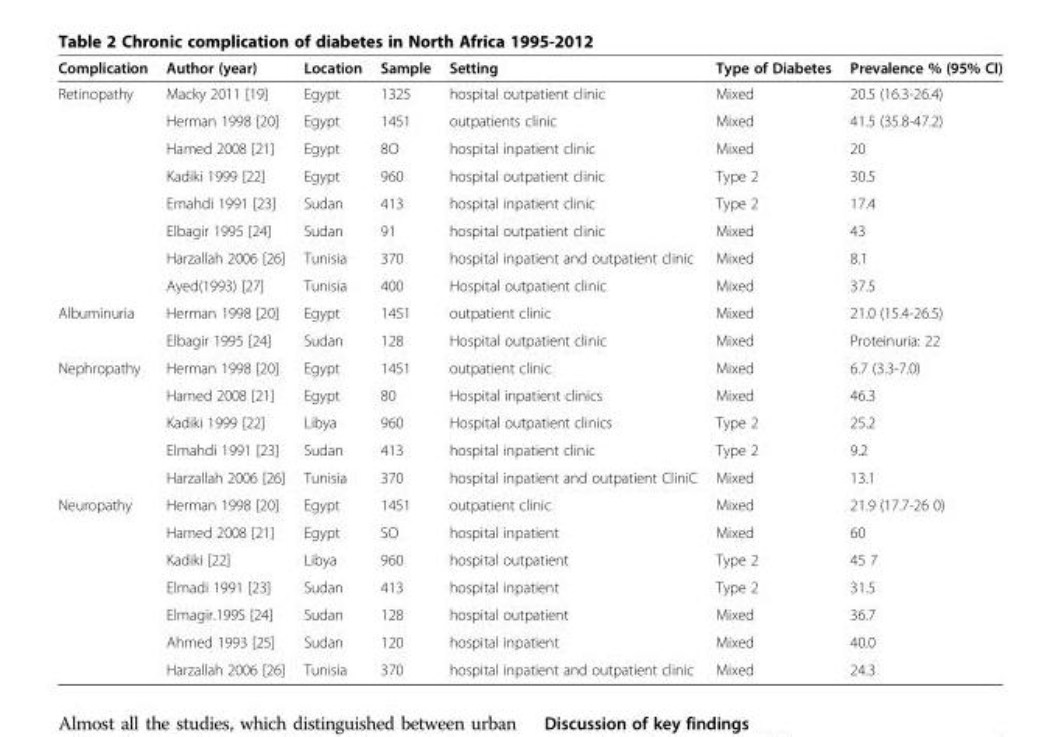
<table><thead><tr><td>Complication</td><td>Author (year)</td><td>Location</td><td>Sample</td><td>Setting</td><td>Type of Diabetes</td><td>Prevalence % (95% CI)</td></tr></thead><tbody><tr><td rowspan="8">Retinopathy</td><td>Macky 2011 [19]</td><td>Egypt</td><td>1325</td><td>hospital outpatient clinic</td><td>Mixed</td><td>20.5 (16.3-26.4)</td></tr><tr><td>Herman 1998 [20]</td><td>Egypt</td><td>1451</td><td>outpatients clinic</td><td>Mixed</td><td>41.5 (35.8-47.2)</td></tr><tr><td>Hamed 2008 [21]</td><td>Egypt</td><td>8O</td><td>hospital inpatient clinic</td><td>Mixed</td><td>20</td></tr><tr><td>Kadiki 1999 [22]</td><td>Egypt</td><td>960</td><td>hospital outpatient clinic</td><td>Type 2</td><td>30.5</td></tr><tr><td>Emahdi 1991 [23]</td><td>Sudan</td><td>413</td><td>hospital inpatient clinic</td><td>Type 2</td><td>17.4</td></tr><tr><td>Elbagir 1995 [24]</td><td>Sudan</td><td>91</td><td>hospital outpatient clinic</td><td>Mixed</td><td>43</td></tr><tr><td>Harzallah 2006 [26]</td><td>Tunisia</td><td>370</td><td>hospital inpatient and outpatient clinic</td><td>Mixed</td><td>8.1</td></tr><tr><td>Ayed(1993) [27]</td><td>Tunisia</td><td>400</td><td>Hospital outpatient clinic</td><td>Mixed</td><td>37.5</td></tr><tr><td rowspan="2">Albuminuria</td><td>Herman 1998 [20]</td><td>Egypt</td><td>1451</td><td>outpatient clinic</td><td>Mixed</td><td>21.0 (15.4-26.5)</td></tr><tr><td>Elbagir 1995 [24]</td><td>Sudan</td><td>128</td><td>Hospital outpatient clinic</td><td>Mixed</td><td>Proteinuria: 22</td></tr><tr><td rowspan="5">Nephropathy</td><td>Herman 1998 [20]</td><td>Egypt</td><td>1451</td><td>outpatient clinic</td><td>Mixed</td><td>6.7 (3.3-7.0)</td></tr><tr><td>Hamed 2008 [21]</td><td>Egypt</td><td>80</td><td>Hospital inpatient clinics</td><td>Mixed</td><td>46.3</td></tr><tr><td>Kadiki 1999 [22]</td><td>Libya</td><td>960</td><td>Hospital outpatient clinics</td><td>Type 2</td><td>25.2</td></tr><tr><td>Elmahdi 1991 [23]</td><td>Sudan</td><td>413</td><td>hospital inpatient clinic</td><td>Type 2</td><td>9.2</td></tr><tr><td>Harzallah 2006 [26]</td><td>Tunisia</td><td>370</td><td>hospital inpatient and outpatient CliniC</td><td>Mixed</td><td>13.1</td></tr><tr><td rowspan="7">Neuropathy</td><td>Herman 1998 [20]</td><td>Egypt</td><td>1451</td><td>outpatient clinic</td><td>Mixed</td><td>21.9 (17.7-26 0)</td></tr><tr><td>Hamed 2008 [21]</td><td>Egypt</td><td>SO</td><td>hospital inpatient</td><td>Mixed</td><td>60</td></tr><tr><td>Kadiki [22]</td><td>Libya</td><td>960</td><td>hospital outpatient</td><td>Type 2</td><td>45 7</td></tr><tr><td>Elmadi 1991 [23]</td><td>Sudan</td><td>413</td><td>hospital inpatient</td><td>Type 2</td><td>31.5</td></tr><tr><td>Elmagir.199S [24]</td><td>Sudan</td><td>128</td><td>hospital outpatient</td><td>Mixed</td><td>36.7</td></tr><tr><td>Ahmed 1993 [25]</td><td>Sudan</td><td>120</td><td>hospital inpatient</td><td>Mixed</td><td>40.0</td></tr><tr><td>Harzallah 2006 [26]</td><td>Tunisia</td><td>370</td><td>hospital inpatient and outpatient clinic</td><td>Mixed</td><td>24.3</td></tr></tbody></table>